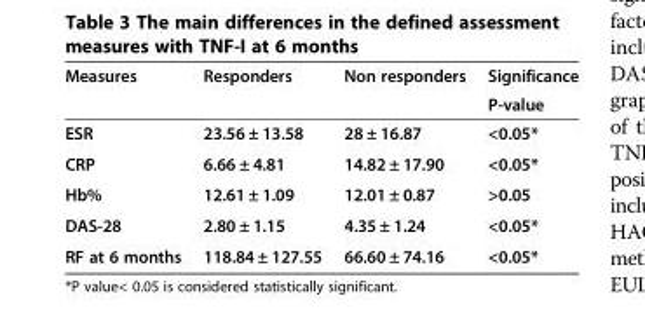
<table><thead><tr><td rowspan="2">Measures</td><td rowspan="2">Responders</td><td rowspan="2">Non responders</td><td rowspan="2">Significance P-value</td></tr><tr></tr></thead><tbody><tr><td>ESR</td><td>23.56 ± 13.58</td><td>28 ± 16.87</td><td>&lt;0.05*</td></tr><tr><td>CRP</td><td>6.66 ± 4.81</td><td>14.82 ± 17.90</td><td>&lt;0.05*</td></tr><tr><td>Hb%</td><td>12.61 ± 1.09</td><td>12.01 ± 0.87</td><td>&gt;0.05</td></tr><tr><td>DAS-28</td><td>2.80 ± 1.15</td><td>4.35 ± 1.24</td><td>&lt;0.05*</td></tr><tr><td>RF at 6 months</td><td>118.84 ± 127.55</td><td>66.60 ± 74.16</td><td>&lt;0.05*</td></tr></tbody></table>